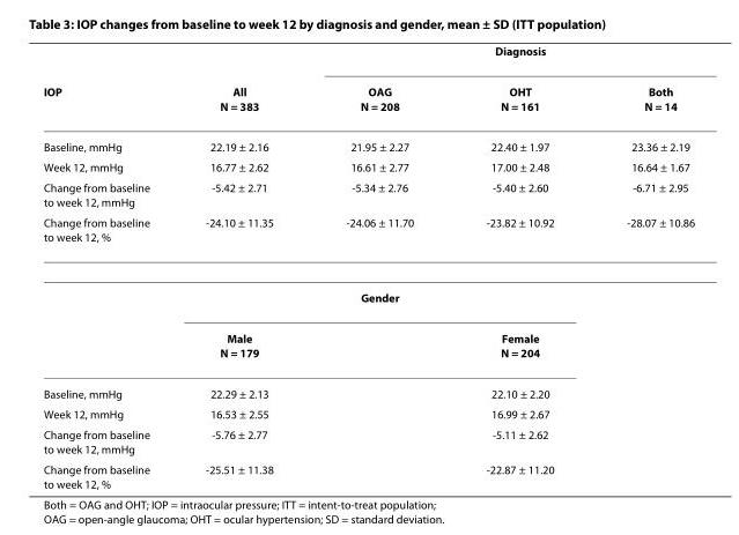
<table><thead><tr><td rowspan="2">IOP</td><td rowspan="2">All N = 383</td><td colspan="3">Diagnosis</td></tr><tr><td>OAG N = 208</td><td>OHT N = 161</td><td>Both N = 14</td></tr></thead><tbody><tr><td>Baseline, mmHg</td><td>22.19 ± 2.16</td><td>21.95 ± 2.27</td><td>22.40 ± 1.97</td><td>23.36 ± 2.19</td></tr><tr><td>Week 12, mmHg</td><td>16.77 ± 2.62</td><td>16.61 ± 2.77</td><td>17.00 ± 2.48</td><td>16.64 ± 1.67</td></tr><tr><td>Change from baseline to week 12, mmHg</td><td>-5.42 ± 2.71</td><td>-5.34 ± 2.76</td><td>-5.40 ± 2.60</td><td>-6.71 ± 2.95</td></tr><tr><td rowspan="3">Change from baseline to week 12, %</td><td>-24.10 ± 11.35</td><td>-24.06 ± 11.70</td><td>-23.82 ± 10.92</td><td>-28.07 ± 10.86</td></tr><tr><td colspan="3">Gender</td><td></td></tr><tr><td>Male N = 179</td><td></td><td>Female N = 204</td><td></td></tr><tr><td>Baseline, mmHg</td><td>22.29 ± 2.13</td><td></td><td>22.10 ± 2.20</td><td></td></tr><tr><td>Week 12, mmHg</td><td>16.53 ± 2.55</td><td></td><td>16.99 ± 2.67</td><td></td></tr><tr><td>Change from baseline to week 12, mmHg</td><td>-5.76 ± 2.77</td><td></td><td>-5.11 ± 2.62</td><td></td></tr><tr><td>Change from baseline to week 12, %</td><td>-25.51 ± 11.38</td><td></td><td>-22.87 ± 11.20</td><td></td></tr></tbody></table>